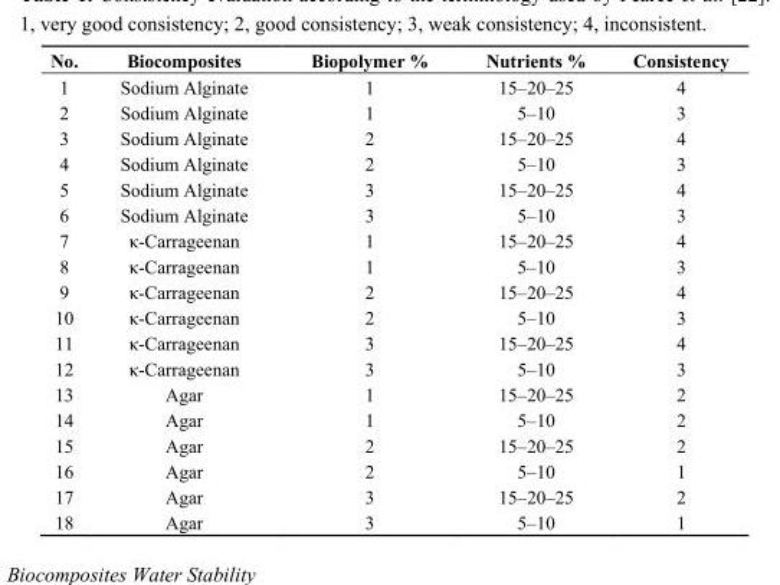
<table><thead><tr><td>No.</td><td>Biocomposites</td><td>Biopolymer %</td><td>Nutrients %</td><td>Consistency</td></tr></thead><tbody><tr><td>1</td><td>Sodium Alginate</td><td>1</td><td>15–20–25</td><td>4</td></tr><tr><td>2</td><td>Sodium Alginate</td><td>1</td><td>5–10</td><td>3</td></tr><tr><td>3</td><td>Sodium Alginate</td><td>2</td><td>15–20–25</td><td>4</td></tr><tr><td>4</td><td>Sodium Alginate</td><td>2</td><td>5–10</td><td>3</td></tr><tr><td>5</td><td>Sodium Alginate</td><td>3</td><td>15–20–25</td><td>4</td></tr><tr><td>6</td><td>Sodium Alginate</td><td>3</td><td>5–10</td><td>3</td></tr><tr><td>7</td><td>κ-Carrageenan</td><td>1</td><td>15–20–25</td><td>4</td></tr><tr><td>8</td><td>κ-Carrageenan</td><td>1</td><td>5–10</td><td>3</td></tr><tr><td>9</td><td>κ-Carrageenan</td><td>2</td><td>15–20–25</td><td>4</td></tr><tr><td>10</td><td>κ-Carrageenan</td><td>2</td><td>5–10</td><td>3</td></tr><tr><td>11</td><td>κ-Carrageenan</td><td>3</td><td>15–20–25</td><td>4</td></tr><tr><td>12</td><td>κ-Carrageenan</td><td>3</td><td>5–10</td><td>3</td></tr><tr><td>13</td><td>Agar</td><td>1</td><td>15–20–25</td><td>2</td></tr><tr><td>14</td><td>Agar</td><td>1</td><td>5–10</td><td>2</td></tr><tr><td>15</td><td>Agar</td><td>2</td><td>15–20–25</td><td>2</td></tr><tr><td>16</td><td>Agar</td><td>2</td><td>5–10</td><td>1</td></tr><tr><td>17</td><td>Agar</td><td>3</td><td>15–20–25</td><td>2</td></tr><tr><td>18</td><td>Agar</td><td>3</td><td>5–10</td><td>1</td></tr></tbody></table>